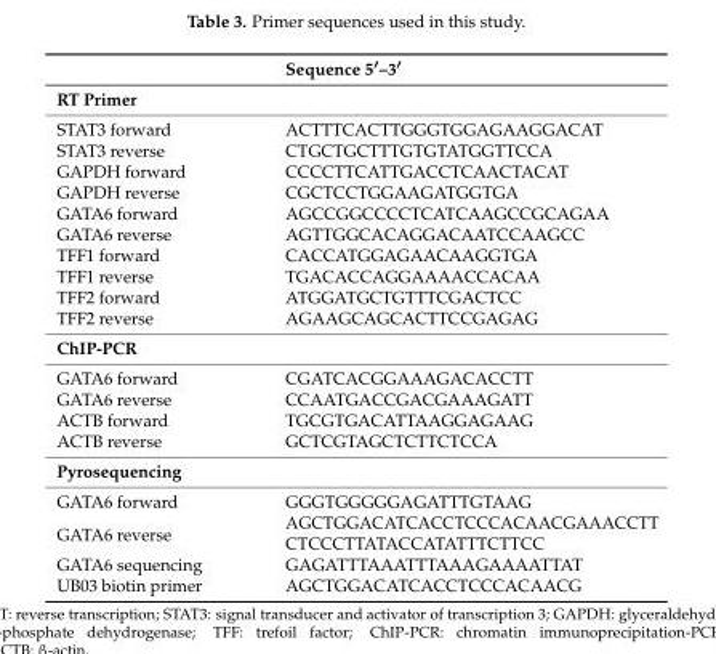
<table><thead><tr><td></td><td>Sequence 5′–3′</td></tr></thead><tbody><tr><td colspan="2">RT Primer</td></tr><tr><td>STAT3 forward</td><td>ACTTTCACTTGGGTGGAGAAGGACAT</td></tr><tr><td>STAT3 reverse</td><td>CTGCTGCTTTGTGTATGGTTCCA</td></tr><tr><td>GAPDH forward</td><td>CCCCTTCATTGACCTCAACTACAT</td></tr><tr><td>GAPDH reverse</td><td>CGCTCCTGGAAGATGGTGA</td></tr><tr><td>GATA6 forward</td><td>AGCCGGCCCCTCATCAAGCCGCAGAA</td></tr><tr><td>GATA6 reverse</td><td>AGTTGGCACAGGACAATCCAAGCC</td></tr><tr><td>TFF1 forward</td><td>CACCATGGAGAACAAGGTGA</td></tr><tr><td>TFF1 reverse</td><td>TGACACCAGGAAAACCACAA</td></tr><tr><td>TFF2 forward</td><td>ATGGATGCTGTTTCGACTCC</td></tr><tr><td>TFF2 reverse</td><td>AGAAGCAGCACTTCCGAGAG</td></tr><tr><td colspan="2">ChIP-PCR</td></tr><tr><td>GATA6 forward</td><td>CGATCACGGAAAGACACCTT</td></tr><tr><td>GATA6 reverse</td><td>CCAATGACCGACGAAAGATT</td></tr><tr><td>ACTB forward</td><td>TGCGTGACATTAAGGAGAAG</td></tr><tr><td>ACTB reverse</td><td>GCTCGTAGCTCTTCTCCA</td></tr><tr><td colspan="2">Pyrosequencing</td></tr><tr><td>GATA6 forward</td><td>GGGTGGGGGAGATTTGTAAG</td></tr><tr><td rowspan="2">GATA6 reverse</td><td>AGCTGGACATCACCTCCCACAACGAAACCTT</td></tr><tr><td>CTCCCTTATACCATATTTCTTCC</td></tr><tr><td>GATA6 sequencing</td><td>GAGATTTAAATTTAAAGAAAATTAT</td></tr><tr><td>UB03 biotin primer</td><td>AGCTGGACATCACCTCCCACAACG</td></tr></tbody></table>